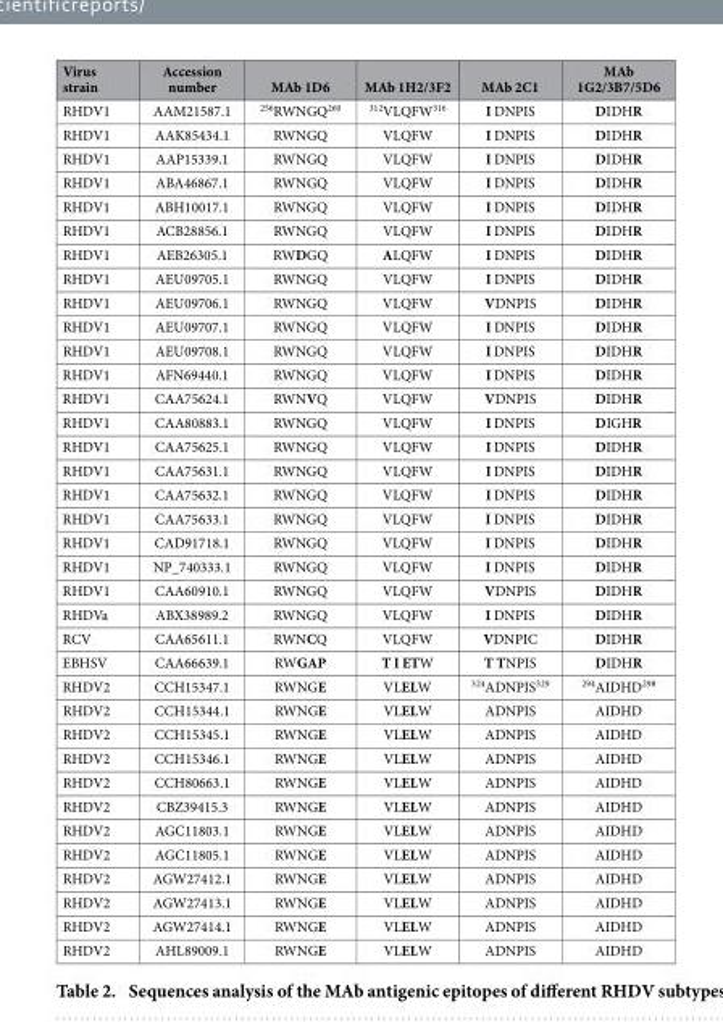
<table><thead><tr><td>Virus strain</td><td>Accession number</td><td>MAb 1D6</td><td>MAb 1H2/3F2</td><td>MAb 2C1</td><td>MAb 1G2/3B7/5D6</td></tr></thead><tbody><tr><td>RHDV1</td><td>AAM21587.1</td><td><sup>256</sup>RWNGQ<sup>260</sup></td><td><sup>312</sup>VLQFW<sup>316</sup></td><td>I DNPIS</td><td>DIDHR</td></tr><tr><td>RHDV1</td><td>AAK85434.1</td><td>RWNGQ</td><td>VLQFW</td><td>I DNPIS</td><td>DIDHR</td></tr><tr><td>RHDV1</td><td>AAP15339.1</td><td>RWNGQ</td><td>VLQFW</td><td>I DNPIS</td><td>DIDHR</td></tr><tr><td>RHDV1</td><td>ABA46867.1</td><td>RWNGQ</td><td>VLQFW</td><td>I DNPIS</td><td>DIDHR</td></tr><tr><td>RHDV1</td><td>ABH10017.1</td><td>RWNGQ</td><td>VLQFW</td><td>I DNPIS</td><td>DIDHR</td></tr><tr><td>RHDV1</td><td>ACB28856.1</td><td>RWNGQ</td><td>VLQFW</td><td>I DNPIS</td><td>DIDHR</td></tr><tr><td>RHDV1</td><td>AEB26305.1</td><td>RWDGQ</td><td>ALQFW</td><td>I DNPIS</td><td>DIDHR</td></tr><tr><td>RHDV1</td><td>AEU09705.1</td><td>RWNGQ</td><td>VLQFW</td><td>I DNPIS</td><td>DIDHR</td></tr><tr><td>RHDV1</td><td>AEU09706.1</td><td>RWNGQ</td><td>VLQFW</td><td>VDNPIS</td><td>DIDHR</td></tr><tr><td>RHDV1</td><td>AEU09707.1</td><td>RWNGQ</td><td>VLQFW</td><td>I DNPIS</td><td>DIDHR</td></tr><tr><td>RHDV1</td><td>AEU09708.1</td><td>RWNGQ</td><td>VLQFW</td><td>I DNPIS</td><td>DIDHR</td></tr><tr><td>RHDV1</td><td>AFN69440.1</td><td>RWNGQ</td><td>VLQFW</td><td>I DNPIS</td><td>DIDHR</td></tr><tr><td>RHDV1</td><td>CAA75624.1</td><td>RWNVQ</td><td>VLQFW</td><td>VDNPIS</td><td>DIDHR</td></tr><tr><td>RHDV1</td><td>CAA80883.1</td><td>RWNGQ</td><td>VLQFW</td><td>I DNPIS</td><td>DIGHR</td></tr><tr><td>RHDV1</td><td>CAA75625.1</td><td>RWNGQ</td><td>VLQFW</td><td>I DNPIS</td><td>DIDHR</td></tr><tr><td>RHDV1</td><td>CAA75631.1</td><td>RWNGQ</td><td>VLQFW</td><td>I DNPIS</td><td>DIDHR</td></tr><tr><td>RHDV1</td><td>CAA75632.1</td><td>RWNGQ</td><td>VLQFW</td><td>I DNPIS</td><td>DIDHR</td></tr><tr><td>RHDV1</td><td>CAA75633.1</td><td>RWNGQ</td><td>VLQFW</td><td>I DNPIS</td><td>DIDHR</td></tr><tr><td>RHDV1</td><td>CAD91718.1</td><td>RWNGQ</td><td>VLQFW</td><td>I DNPIS</td><td>DIDHR</td></tr><tr><td>RHDV1</td><td>NP_740333.1</td><td>RWNGQ</td><td>VLQFW</td><td>I DNPIS</td><td>DIDHR</td></tr><tr><td>RHDV1</td><td>CAA60910.1</td><td>RWNGQ</td><td>VLQFW</td><td>VDNPIS</td><td>DIDHR</td></tr><tr><td>RHDVa</td><td>ABX38989.2</td><td>RWNGQ</td><td>VLQFW</td><td>I DNPIS</td><td>DIDHR</td></tr><tr><td>RCV</td><td>CAA65611.1</td><td>RWNCQ</td><td>VLQFW</td><td>VDNPIC</td><td>DIDHR</td></tr><tr><td>EBHSV</td><td>CAA66639.1</td><td>RWGAP</td><td>T I ETW</td><td>T TNPIS</td><td>DIDHR</td></tr><tr><td>RHDV2</td><td>CCH15347.1</td><td>RWNGE</td><td>VLELW</td><td><sup>324</sup>ADNPIS<sup>329</sup></td><td><sup>294</sup>AIDHD<sup>298</sup></td></tr><tr><td>RHDV2</td><td>CCH15344.1</td><td>RWNGE</td><td>VLELW</td><td>ADNPIS</td><td>AIDHD</td></tr><tr><td>RHDV2</td><td>CCH15345.1</td><td>RWNGE</td><td>VLELW</td><td>ADNPIS</td><td>AIDHD</td></tr><tr><td>RHDV2</td><td>CCH15346.1</td><td>RWNGE</td><td>VLELW</td><td>ADNPIS</td><td>AIDHD</td></tr><tr><td>RHDV2</td><td>CCH80663.1</td><td>RWNGE</td><td>VLELW</td><td>ADNPIS</td><td>AIDHD</td></tr><tr><td>RHDV2</td><td>CBZ39415.3</td><td>RWNGE</td><td>VLELW</td><td>ADNPIS</td><td>AIDHD</td></tr><tr><td>RHDV2</td><td>AGC11803.1</td><td>RWNGE</td><td>VLELW</td><td>ADNPIS</td><td>AIDHD</td></tr><tr><td>RHDV2</td><td>AGC11805.1</td><td>RWNGE</td><td>VLELW</td><td>ADNPIS</td><td>AIDHD</td></tr><tr><td>RHDV2</td><td>AGW27412.1</td><td>RWNGE</td><td>VLELW</td><td>ADNPIS</td><td>AIDHD</td></tr><tr><td>RHDV2</td><td>AGW27413.1</td><td>RWNGE</td><td>VLELW</td><td>ADNPIS</td><td>AIDHD</td></tr><tr><td>RHDV2</td><td>AGW27414.1</td><td>RWNGE</td><td>VLELW</td><td>ADNPIS</td><td>AIDHD</td></tr><tr><td>RHDV2</td><td>AHL89009.1</td><td>RWNGE</td><td>VLELW</td><td>ADNPIS</td><td>AIDHD</td></tr></tbody></table>